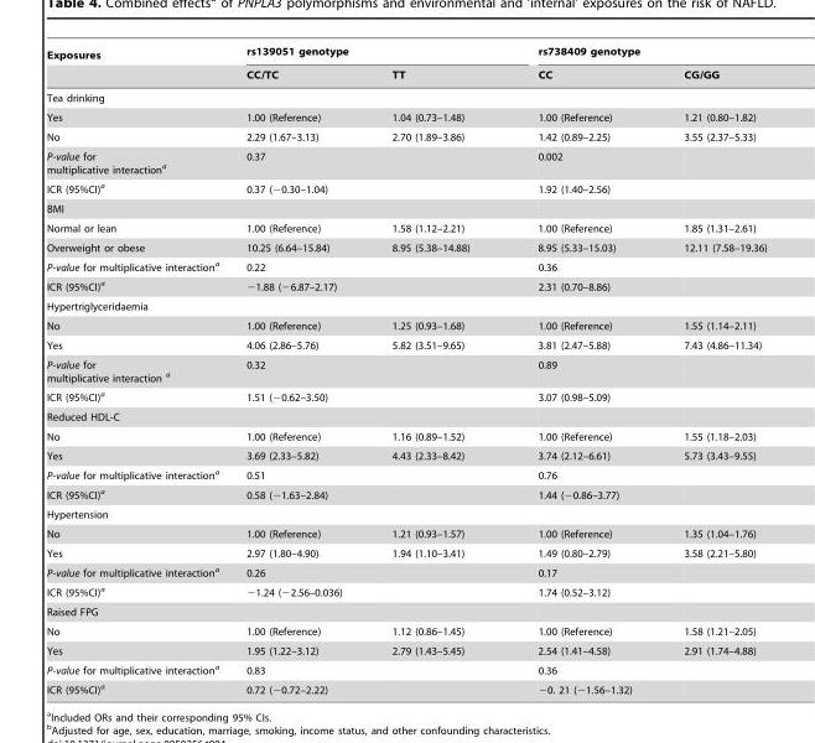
<table><thead><tr><td rowspan="2">Exposures</td><td colspan="2">rs139051 genotype</td><td colspan="2">rs738409 genotype</td></tr><tr><td>CC/TC</td><td>TT</td><td>CC</td><td>CG/GG</td></tr></thead><tbody><tr><td colspan="5">Tea drinking</td></tr><tr><td>Yes</td><td>1.00 (Reference)</td><td>1.04 (0.73–1.48)</td><td>1.00 (Reference)</td><td>1.21 (0.80–1.82)</td></tr><tr><td>No</td><td>2.29 (1.67–3.13)</td><td>2.70 (1.89–3.86)</td><td>1.42 (0.89–2.25)</td><td>3.55 (2.37–5.33)</td></tr><tr><td>P-value for multiplicative interaction<sup>a</sup></td><td>0.37</td><td></td><td>0.002</td><td></td></tr><tr><td>ICR (95%CI)<sup>a</sup></td><td>0.37 (−0.30–1.04)</td><td></td><td>1.92 (1.40–2.56)</td><td></td></tr><tr><td colspan="5">BMI</td></tr><tr><td>Normal or lean</td><td>1.00 (Reference)</td><td>1.58 (1.12–2.21)</td><td>1.00 (Reference)</td><td>1.85 (1.31–2.61)</td></tr><tr><td>Overweight or obese</td><td>10.25 (6.64–15.84)</td><td>8.95 (5.38–14.88)</td><td>8.95 (5.33–15.03)</td><td>12.11 (7.58–19.36)</td></tr><tr><td>P-value for multiplicative interaction<sup>a</sup></td><td>0.22</td><td></td><td>0.36</td><td></td></tr><tr><td>ICR (95%CI)<sup>a</sup></td><td>−1.88 (−6.87–2.17)</td><td></td><td>2.31 (0.70–8.86)</td><td></td></tr><tr><td colspan="5">Hypertriglyceridaemia</td></tr><tr><td>No</td><td>1.00 (Reference)</td><td>1.25 (0.93–1.68)</td><td>1.00 (Reference)</td><td>1.55 (1.14–2.11)</td></tr><tr><td>Yes</td><td>4.06 (2.86–5.76)</td><td>5.82 (3.51–9.65)</td><td>3.81 (2.47–5.88)</td><td>7.43 (4.86–11.34)</td></tr><tr><td>P-value for multiplicative interaction a</td><td>0.32</td><td></td><td>0.89</td><td></td></tr><tr><td>ICR (95%CI)<sup>a</sup></td><td>1.51 (−0.62–3.50)</td><td></td><td>3.07 (0.98–5.09)</td><td></td></tr><tr><td colspan="5">Reduced HDL-C</td></tr><tr><td>No</td><td>1.00 (Reference)</td><td>1.16 (0.89–1.52)</td><td>1.00 (Reference)</td><td>1.55 (1.18–2.03)</td></tr><tr><td>Yes</td><td>3.69 (2.33–5.82)</td><td>4.43 (2.33–8.42)</td><td>3.74 (2.12–6.61)</td><td>5.73 (3.43–9.55)</td></tr><tr><td>P-value for multiplicative interaction<sup>a</sup></td><td>0.51</td><td></td><td>0.76</td><td></td></tr><tr><td>ICR (95%CI)<sup>a</sup></td><td>0.58 (−1.63–2.84)</td><td></td><td>1.44 (−0.86–3.77)</td><td></td></tr><tr><td colspan="5">Hypertension</td></tr><tr><td>No</td><td>1.00 (Reference)</td><td>1.21 (0.93–1.57)</td><td>1.00 (Reference)</td><td>1.35 (1.04–1.76)</td></tr><tr><td>Yes</td><td>2.97 (1.80–4.90)</td><td>1.94 (1.10–3.41)</td><td>1.49 (0.80–2.79)</td><td>3.58 (2.21–5.80)</td></tr><tr><td>P-value for multiplicative interaction<sup>a</sup></td><td>0.26</td><td></td><td>0.17</td><td></td></tr><tr><td>ICR (95%CI)<sup>a</sup></td><td>−1.24 (−2.56–0.036)</td><td></td><td>1.74 (0.52–3.12)</td><td></td></tr><tr><td colspan="5">Raised FPG</td></tr><tr><td>No</td><td>1.00 (Reference)</td><td>1.12 (0.86–1.45)</td><td>1.00 (Reference)</td><td>1.58 (1.21–2.05)</td></tr><tr><td>Yes</td><td>1.95 (1.22–3.12)</td><td>2.79 (1.43–5.45)</td><td>2.54 (1.41–4.58)</td><td>2.91 (1.74–4.88)</td></tr><tr><td>P-value for multiplicative interaction<sup>a</sup></td><td>0.83</td><td></td><td>0.36</td><td></td></tr><tr><td>ICR (95%CI)<sup>a</sup></td><td>0.72 (−0.72–2.22)</td><td></td><td>−0. 21 (−1.56–1.32)</td><td></td></tr></tbody></table>